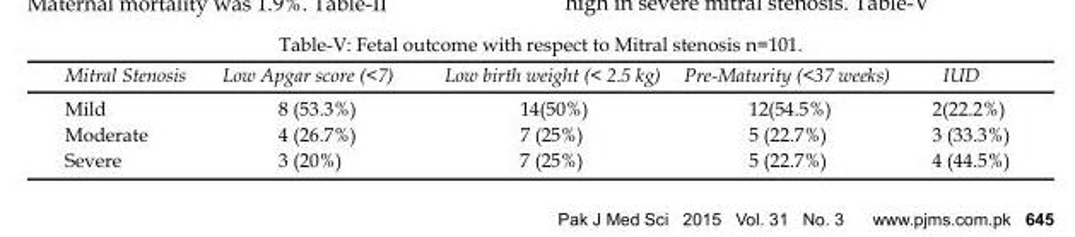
<table><thead><tr><td>Mitral Stenosis</td><td>Low Apgar score (&lt;7)</td><td>Low birth weight (&lt; 2.5 kg)</td><td>Pre-Maturity (&lt;37 weeks)</td><td>IUD</td></tr></thead><tbody><tr><td>Mild</td><td>8 (53.3%)</td><td>14(50%)</td><td>12(54.5%)</td><td>2(22.2%)</td></tr><tr><td>Moderate</td><td>4 (26.7%)</td><td>7 (25%)</td><td>5 (22.7%)</td><td>3 (33.3%)</td></tr><tr><td>Severe</td><td>3 (20%)</td><td>7 (25%)</td><td>5 (22.7%)</td><td>4 (44.5%)</td></tr></tbody></table>